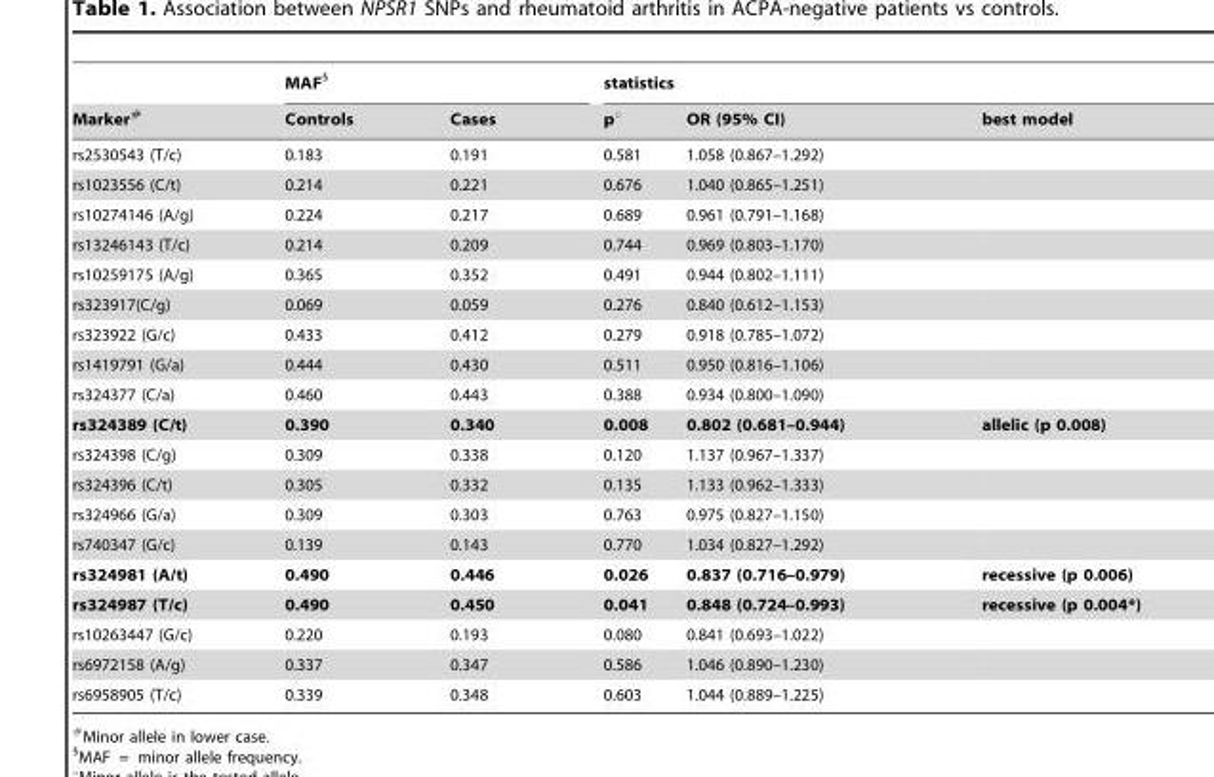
<table><thead><tr><td rowspan="2">Marker#</td><td colspan="2">MAF§</td><td colspan="3">statistics</td></tr><tr><td>Controls</td><td>Cases</td><td>p°</td><td>OR (95% CI)</td><td>best model</td></tr></thead><tbody><tr><td>rs2530543 (T/c)</td><td>0.183</td><td>0.191</td><td>0.581</td><td>1.058 (0.867–1.292)</td><td></td></tr><tr><td>rs1023556 (C/t)</td><td>0.214</td><td>0.221</td><td>0.676</td><td>1.040 (0.865–1.251)</td><td></td></tr><tr><td>rs10274146 (A/g)</td><td>0.224</td><td>0.217</td><td>0.689</td><td>0.961 (0.791–1.168)</td><td></td></tr><tr><td>rs13246143 (T/c)</td><td>0.214</td><td>0.209</td><td>0.744</td><td>0.969 (0.803–1.170)</td><td></td></tr><tr><td>rs10259175 (A/g)</td><td>0.365</td><td>0.352</td><td>0.491</td><td>0.944 (0.802–1.111)</td><td></td></tr><tr><td>rs323917(C/g)</td><td>0.069</td><td>0.059</td><td>0.276</td><td>0.840 (0.612–1.153)</td><td></td></tr><tr><td>rs323922 (G/c)</td><td>0.433</td><td>0.412</td><td>0.279</td><td>0.918 (0.785–1.072)</td><td></td></tr><tr><td>rs1419791 (G/a)</td><td>0.444</td><td>0.430</td><td>0.511</td><td>0.950 (0.816–1.106)</td><td></td></tr><tr><td>rs324377 (C/a)</td><td>0.460</td><td>0.443</td><td>0.388</td><td>0.934 (0.800–1.090)</td><td></td></tr><tr><td>rs324389 (C/t)</td><td>0.390</td><td>0.340</td><td>0.008</td><td>0.802 (0.681–0.944)</td><td>allelic (p 0.008)</td></tr><tr><td>rs324398 (C/g)</td><td>0.309</td><td>0.338</td><td>0.120</td><td>1.137 (0.967–1.337)</td><td></td></tr><tr><td>rs324396 (C/t)</td><td>0.305</td><td>0.332</td><td>0.135</td><td>1.133 (0.962–1.333)</td><td></td></tr><tr><td>rs324966 (G/a)</td><td>0.309</td><td>0.303</td><td>0.763</td><td>0.975 (0.827–1.150)</td><td></td></tr><tr><td>rs740347 (G/c)</td><td>0.139</td><td>0.143</td><td>0.770</td><td>1.034 (0.827–1.292)</td><td></td></tr><tr><td>rs324981 (A/t)</td><td>0.490</td><td>0.446</td><td>0.026</td><td>0.837 (0.716–0.979)</td><td>recessive (p 0.006)</td></tr><tr><td>rs324987 (T/c)</td><td>0.490</td><td>0.450</td><td>0.041</td><td>0.848 (0.724–0.993)</td><td>recessive (p 0.004*)</td></tr><tr><td>rs10263447 (G/c)</td><td>0.220</td><td>0.193</td><td>0.080</td><td>0.841 (0.693–1.022)</td><td></td></tr><tr><td>rs6972158 (A/g)</td><td>0.337</td><td>0.347</td><td>0.586</td><td>1.046 (0.890–1.230)</td><td></td></tr><tr><td>rs6958905 (T/c)</td><td>0.339</td><td>0.348</td><td>0.603</td><td>1.044 (0.889–1.225)</td><td></td></tr></tbody></table>